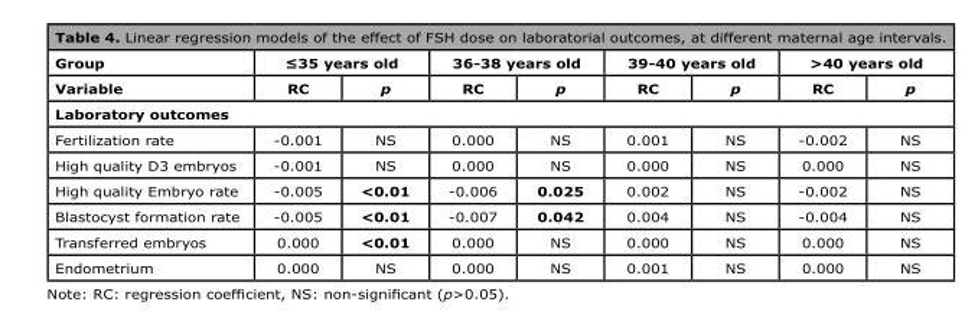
<table><thead><tr><td rowspan="2">Group Variable</td><td colspan="2">≤35 years old</td><td colspan="2">36-38 years old</td><td colspan="2">39-40 years old</td><td colspan="2">&gt;40 years old</td></tr><tr><td>RC</td><td>p</td><td>RC</td><td>p</td><td>RC</td><td>p</td><td>RC</td><td>p</td></tr></thead><tbody><tr><td colspan="9">Laboratory outcomes</td></tr><tr><td>Fertilization rate</td><td>-0.001</td><td>NS</td><td>0.000</td><td>NS</td><td>0.001</td><td>NS</td><td>-0.002</td><td>NS</td></tr><tr><td>High quality D3 embryos</td><td>-0.001</td><td>NS</td><td>0.000</td><td>NS</td><td>0.000</td><td>NS</td><td>0.000</td><td>NS</td></tr><tr><td>High quality Embryo rate</td><td>-0.005</td><td>&lt;0.01</td><td>-0.006</td><td>0.025</td><td>0.002</td><td>NS</td><td>-0.002</td><td>NS</td></tr><tr><td>Blastocyst formation rate</td><td>-0.005</td><td>&lt;0.01</td><td>-0.007</td><td>0.042</td><td>0.004</td><td>NS</td><td>-0.004</td><td>NS</td></tr><tr><td>Transferred embryos</td><td>0.000</td><td>&lt;0.01</td><td>0.000</td><td>NS</td><td>0.000</td><td>NS</td><td>0.000</td><td>NS</td></tr><tr><td>Endometrium</td><td>0.000</td><td>NS</td><td>0.000</td><td>NS</td><td>0.001</td><td>NS</td><td>0.000</td><td>NS</td></tr></tbody></table>